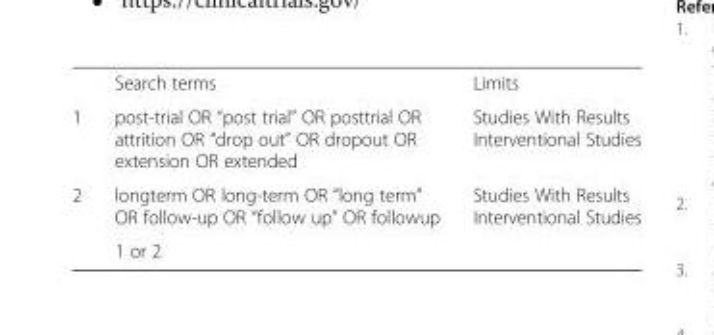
<table><thead><tr><td></td><td>Search terms</td><td>Limits</td></tr></thead><tbody><tr><td>1</td><td>post-trial OR “post trial” OR posttrial OR attrition OR “drop out” OR dropout OR extension OR extended</td><td>Studies With Results Interventional Studies</td></tr><tr><td rowspan="2">2</td><td>longterm OR long-term OR “long term” OR follow-up OR “follow up” OR followup</td><td>Studies With Results Interventional Studies</td></tr><tr><td>1 or 2</td><td></td></tr></tbody></table>